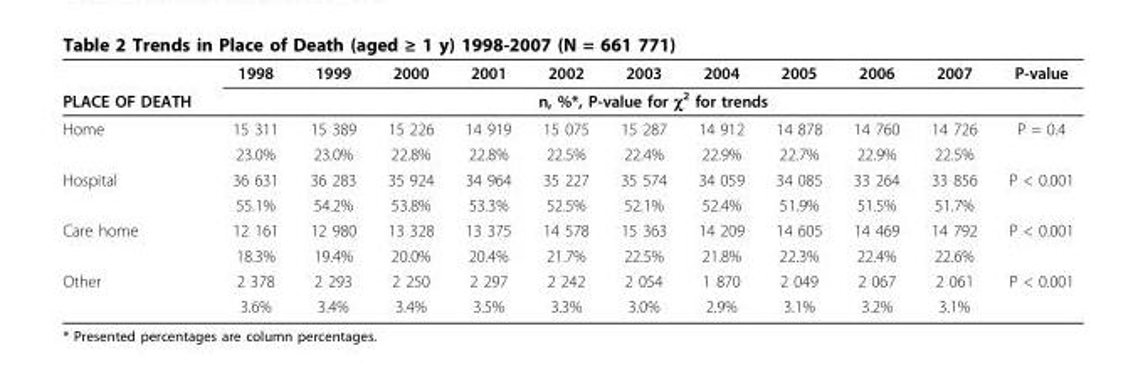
<table><thead><tr><td rowspan="2">PLACE OF DEATH</td><td>1998</td><td>1999</td><td>2000</td><td>2001</td><td>2002</td><td>2003</td><td>2004</td><td>2005</td><td>2006</td><td>2007</td><td>P-value</td></tr><tr><td colspan="11">n, %*, P-value for χ<sup>2</sup> for trends</td></tr></thead><tbody><tr><td rowspan="2">Home</td><td>15 311</td><td>15 389</td><td>15 226</td><td>14 919</td><td>15 075</td><td>15 287</td><td>14 912</td><td>14 878</td><td>14 760</td><td>14 726</td><td>P = 0.4</td></tr><tr><td>23.0%</td><td>23.0%</td><td>22.8%</td><td>22.8%</td><td>22.5%</td><td>22.4%</td><td>22.9%</td><td>22.7%</td><td>22.9%</td><td>22.5%</td><td></td></tr><tr><td rowspan="2">Hospital</td><td>36 631</td><td>36 283</td><td>35 924</td><td>34 964</td><td>35 227</td><td>35 574</td><td>34 059</td><td>34 085</td><td>33 264</td><td>33 856</td><td>P &lt; 0.001</td></tr><tr><td>55.1%</td><td>54.2%</td><td>53.8%</td><td>53.3%</td><td>52.5%</td><td>52.1%</td><td>52.4%</td><td>51.9%</td><td>51.5%</td><td>51.7%</td><td></td></tr><tr><td rowspan="2">Care home</td><td>12 161</td><td>12 980</td><td>13 328</td><td>13 375</td><td>14 578</td><td>15 363</td><td>14 209</td><td>14 605</td><td>14 469</td><td>14 792</td><td>P &lt; 0.001</td></tr><tr><td>18.3%</td><td>19.4%</td><td>20.0%</td><td>20.4%</td><td>21.7%</td><td>22.5%</td><td>21.8%</td><td>22.3%</td><td>22.4%</td><td>22.6%</td><td></td></tr><tr><td rowspan="2">Other</td><td>2 378</td><td>2 293</td><td>2 250</td><td>2 297</td><td>2 242</td><td>2 054</td><td>1 870</td><td>2 049</td><td>2 067</td><td>2 061</td><td>P &lt; 0.001</td></tr><tr><td>3.6%</td><td>3.4%</td><td>3.4%</td><td>3.5%</td><td>3.3%</td><td>3.0%</td><td>2.9%</td><td>3.1%</td><td>3.2%</td><td>3.1%</td><td></td></tr></tbody></table>